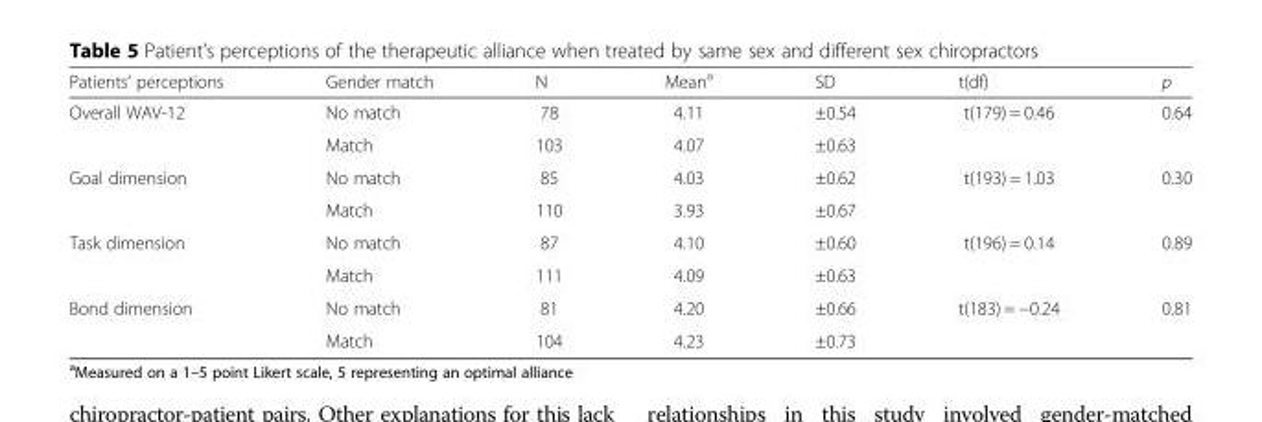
<table><thead><tr><td>Patients’ perceptions</td><td>Gender match</td><td>N</td><td>Mean<sup>a</sup></td><td>SD</td><td>t(df)</td><td>p</td></tr></thead><tbody><tr><td rowspan="2">Overall WAV-12</td><td>No match</td><td>78</td><td>4.11</td><td>±0.54</td><td>t(179) = 0.46</td><td>0.64</td></tr><tr><td>Match</td><td>103</td><td>4.07</td><td>±0.63</td><td></td><td></td></tr><tr><td rowspan="2">Goal dimension</td><td>No match</td><td>85</td><td>4.03</td><td>±0.62</td><td>t(193) = 1.03</td><td>0.30</td></tr><tr><td>Match</td><td>110</td><td>3.93</td><td>±0.67</td><td></td><td></td></tr><tr><td rowspan="2">Task dimension</td><td>No match</td><td>87</td><td>4.10</td><td>±0.60</td><td>t(196) = 0.14</td><td>0.89</td></tr><tr><td>Match</td><td>111</td><td>4.09</td><td>±0.63</td><td></td><td></td></tr><tr><td rowspan="2">Bond dimension</td><td>No match</td><td>81</td><td>4.20</td><td>±0.66</td><td>t(183) = −0.24</td><td>0.81</td></tr><tr><td>Match</td><td>104</td><td>4.23</td><td>±0.73</td><td></td><td></td></tr></tbody></table>